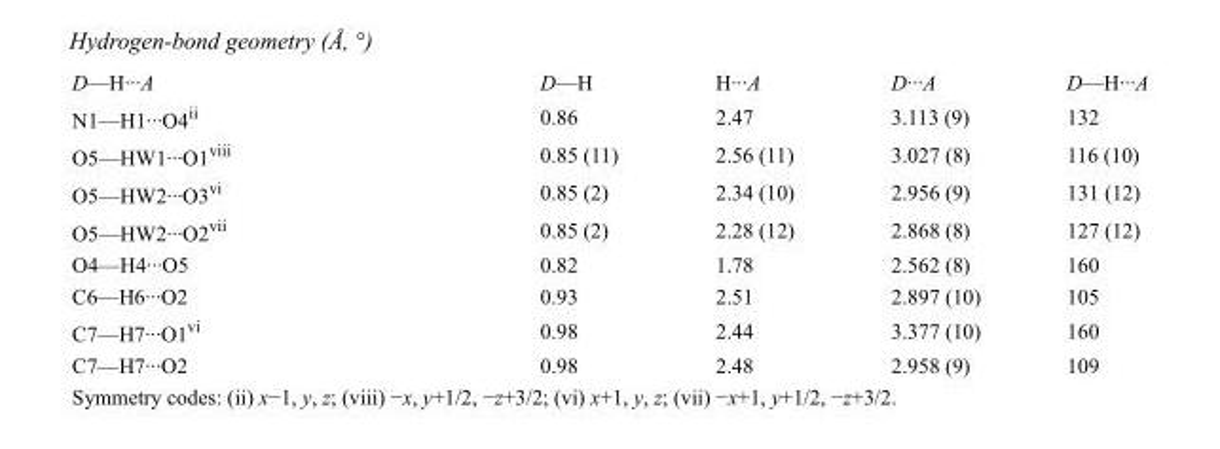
<table><tbody><tr><td>D—H···A</td><td>D—H</td><td>H···A</td><td>D···A</td><td>D—H···A</td></tr><tr><td>N1—H1···O4<sup>ii</sup></td><td>0.86</td><td>2.47</td><td>3.113 (9)</td><td>132</td></tr><tr><td>O5—HW1···O1<sup>viii</sup></td><td>0.85 (11)</td><td>2.56 (11)</td><td>3.027 (8)</td><td>116 (10)</td></tr><tr><td>O5—HW2···O3<sup>vi</sup></td><td>0.85 (2)</td><td>2.34 (10)</td><td>2.956 (9)</td><td>131 (12)</td></tr><tr><td>O5—HW2···O2<sup>vii</sup></td><td>0.85 (2)</td><td>2.28 (12)</td><td>2.868 (8)</td><td>127 (12)</td></tr><tr><td>O4—H4···O5</td><td>0.82</td><td>1.78</td><td>2.562 (8)</td><td>160</td></tr><tr><td>C6—H6···O2</td><td>0.93</td><td>2.51</td><td>2.897 (10)</td><td>105</td></tr><tr><td>C7—H7···O1<sup>vi</sup></td><td>0.98</td><td>2.44</td><td>3.377 (10)</td><td>160</td></tr><tr><td>C7—H7···O2</td><td>0.98</td><td>2.48</td><td>2.958 (9)</td><td>109</td></tr></tbody></table>